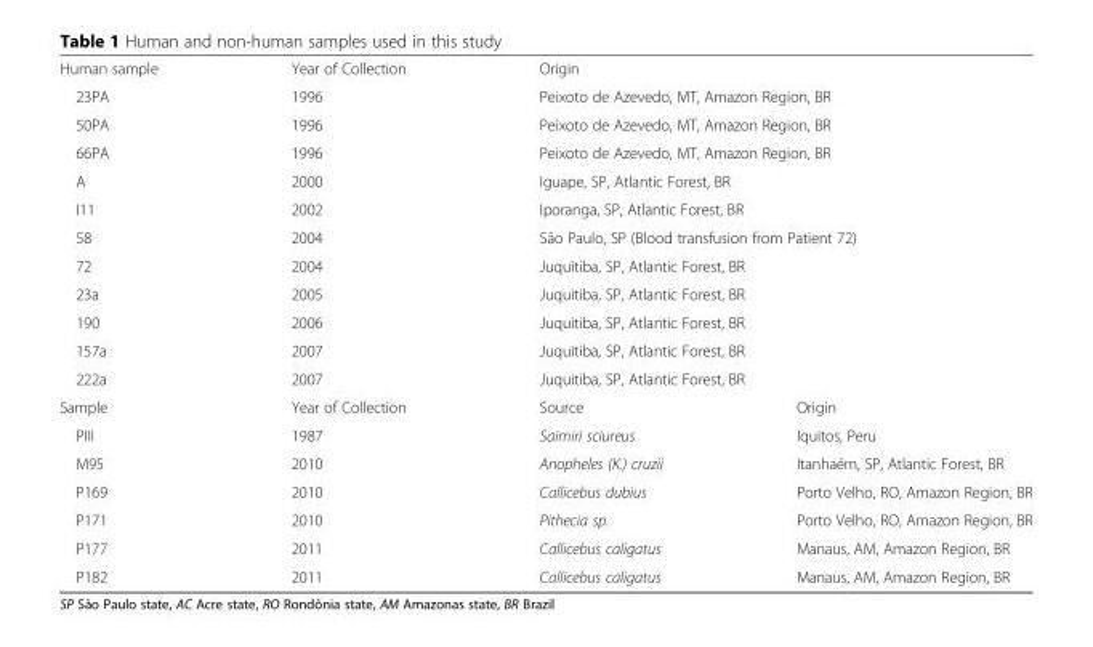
<table><tbody><tr><td>Human sample</td><td>Year of Collection</td><td colspan="2">Origin</td></tr><tr><td>23PA</td><td>1996</td><td colspan="2">Peixoto de Azevedo, MT, Amazon Region, BR</td></tr><tr><td>50PA</td><td>1996</td><td colspan="2">Peixoto de Azevedo, MT, Amazon Region, BR</td></tr><tr><td>66PA</td><td>1996</td><td colspan="2">Peixoto de Azevedo, MT, Amazon Region, BR</td></tr><tr><td>A</td><td>2000</td><td colspan="2">Iguape, SP, Atlantic Forest, BR</td></tr><tr><td>I11</td><td>2002</td><td colspan="2">Iporanga, SP, Atlantic Forest, BR</td></tr><tr><td>58</td><td>2004</td><td colspan="2">São Paulo, SP (Blood transfusion from Patient 72)</td></tr><tr><td>72</td><td>2004</td><td colspan="2">Juquitiba, SP, Atlantic Forest, BR</td></tr><tr><td>23a</td><td>2005</td><td colspan="2">Juquitiba, SP, Atlantic Forest, BR</td></tr><tr><td>190</td><td>2006</td><td colspan="2">Juquitiba, SP, Atlantic Forest, BR</td></tr><tr><td>157a</td><td>2007</td><td colspan="2">Juquitiba, SP, Atlantic Forest, BR</td></tr><tr><td>222a</td><td>2007</td><td colspan="2">Juquitiba, SP, Atlantic Forest, BR</td></tr><tr><td>Sample</td><td>Year of Collection</td><td>Source</td><td>Origin</td></tr><tr><td>PIII</td><td>1987</td><td>Saimiri sciureus</td><td>Iquitos, Peru</td></tr><tr><td>M95</td><td>2010</td><td>Anopheles (K.) cruzii</td><td>Itanhaém, SP, Atlantic Forest, BR</td></tr><tr><td>P169</td><td>2010</td><td>Callicebus dubius</td><td>Porto Velho, RO, Amazon Region, BR</td></tr><tr><td>P171</td><td>2010</td><td>Pithecia sp.</td><td>Porto Velho, RO, Amazon Region, BR</td></tr><tr><td>P177</td><td>2011</td><td>Callicebus caligatus</td><td>Manaus, AM, Amazon Region, BR</td></tr><tr><td>P182</td><td>2011</td><td>Callicebus caligatus</td><td>Manaus, AM, Amazon Region, BR</td></tr></tbody></table>